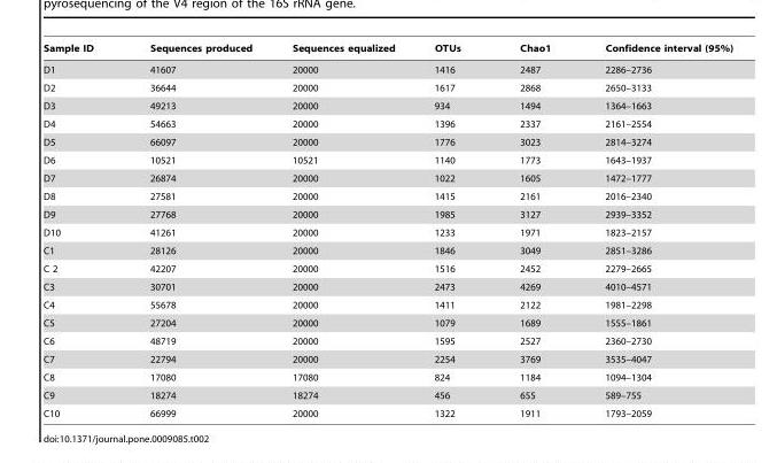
<table><thead><tr><td>Sample ID</td><td>Sequences produced</td><td>Sequences equalized</td><td>OTUs</td><td>Chao1</td><td>Confidence interval (95%)</td></tr></thead><tbody><tr><td>D1</td><td>41607</td><td>20000</td><td>1416</td><td>2487</td><td>2286–2736</td></tr><tr><td>D2</td><td>36644</td><td>20000</td><td>1617</td><td>2868</td><td>2650–3133</td></tr><tr><td>D3</td><td>49213</td><td>20000</td><td>934</td><td>1494</td><td>1364–1663</td></tr><tr><td>D4</td><td>54663</td><td>20000</td><td>1396</td><td>2337</td><td>2161–2554</td></tr><tr><td>D5</td><td>66097</td><td>20000</td><td>1776</td><td>3023</td><td>2814–3274</td></tr><tr><td>D6</td><td>10521</td><td>10521</td><td>1140</td><td>1773</td><td>1643–1937</td></tr><tr><td>D7</td><td>26874</td><td>20000</td><td>1022</td><td>1605</td><td>1472–1777</td></tr><tr><td>D8</td><td>27581</td><td>20000</td><td>1415</td><td>2161</td><td>2016–2340</td></tr><tr><td>D9</td><td>27768</td><td>20000</td><td>1985</td><td>3127</td><td>2939–3352</td></tr><tr><td>D10</td><td>41261</td><td>20000</td><td>1233</td><td>1971</td><td>1823–2157</td></tr><tr><td>C1</td><td>28126</td><td>20000</td><td>1846</td><td>3049</td><td>2851–3286</td></tr><tr><td>C 2</td><td>42207</td><td>20000</td><td>1516</td><td>2452</td><td>2279–2665</td></tr><tr><td>C3</td><td>30701</td><td>20000</td><td>2473</td><td>4269</td><td>4010–4571</td></tr><tr><td>C4</td><td>55678</td><td>20000</td><td>1411</td><td>2122</td><td>1981–2298</td></tr><tr><td>C5</td><td>27204</td><td>20000</td><td>1079</td><td>1689</td><td>1555–1861</td></tr><tr><td>C6</td><td>48719</td><td>20000</td><td>1595</td><td>2527</td><td>2360–2730</td></tr><tr><td>C7</td><td>22794</td><td>20000</td><td>2254</td><td>3769</td><td>3535–4047</td></tr><tr><td>C8</td><td>17080</td><td>17080</td><td>824</td><td>1184</td><td>1094–1304</td></tr><tr><td>C9</td><td>18274</td><td>18274</td><td>456</td><td>655</td><td>589–755</td></tr><tr><td>C10</td><td>66999</td><td>20000</td><td>1322</td><td>1911</td><td>1793–2059</td></tr></tbody></table>